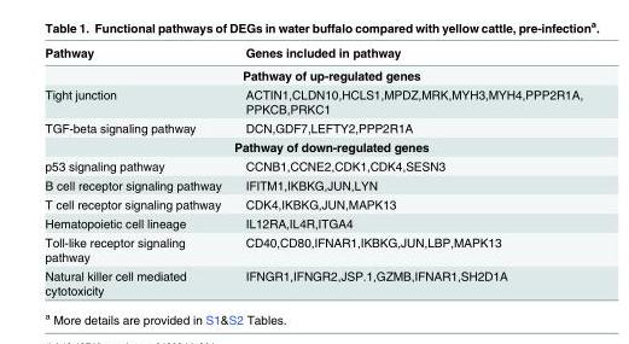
<table><thead><tr><td>Pathway</td><td>Genes included in pathway</td></tr></thead><tbody><tr><td colspan="2">Pathway of up-regulated genes</td></tr><tr><td>Tight junction</td><td>ACTIN1,CLDN10,HCLS1,MPDZ,MRK,MYH3,MYH4,PPP2R1A, PPKCB,PRKC1</td></tr><tr><td>TGF-beta signaling pathway</td><td>DCN,GDF7,LEFTY2,PPP2R1A</td></tr><tr><td colspan="2">Pathway of down-regulated genes</td></tr><tr><td>p53 signaling pathway</td><td>CCNB1,CCNE2,CDK1,CDK4,SESN3</td></tr><tr><td>B cell receptor signaling pathway</td><td>IFITM1,IKBKG,JUN,LYN</td></tr><tr><td>T cell receptor signaling pathway</td><td>CDK4,IKBKG,JUN,MAPK13</td></tr><tr><td>Hematopoietic cell lineage</td><td>IL12RA,IL4R,ITGA4</td></tr><tr><td>Toll-like receptor signaling pathway</td><td>CD40,CD80,IFNAR1,IKBKG,JUN,LBP,MAPK13</td></tr><tr><td>Natural killer cell mediated cytotoxicity</td><td>IFNGR1,IFNGR2,JSP.1,GZMB,IFNAR1,SH2D1A</td></tr></tbody></table>